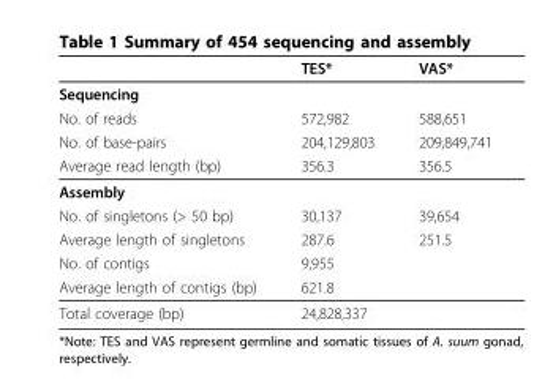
<table><thead><tr><td></td><td>TES*</td><td>VAS*</td></tr></thead><tbody><tr><td colspan="3">Sequencing</td></tr><tr><td>No. of reads</td><td>572,982</td><td>588,651</td></tr><tr><td>No. of base-pairs</td><td>204,129,803</td><td>209,849,741</td></tr><tr><td>Average read length (bp)</td><td>356.3</td><td>356.5</td></tr><tr><td colspan="3">Assembly</td></tr><tr><td>No. of singletons (&gt; 50 bp)</td><td>30,137</td><td>39,654</td></tr><tr><td>Average length of singletons</td><td>287.6</td><td>251.5</td></tr><tr><td>No. of contigs</td><td colspan="2">9,955</td></tr><tr><td>Average length of contigs (bp)</td><td colspan="2">621.8</td></tr><tr><td>Total coverage (bp)</td><td colspan="2">24,828,337</td></tr></tbody></table>